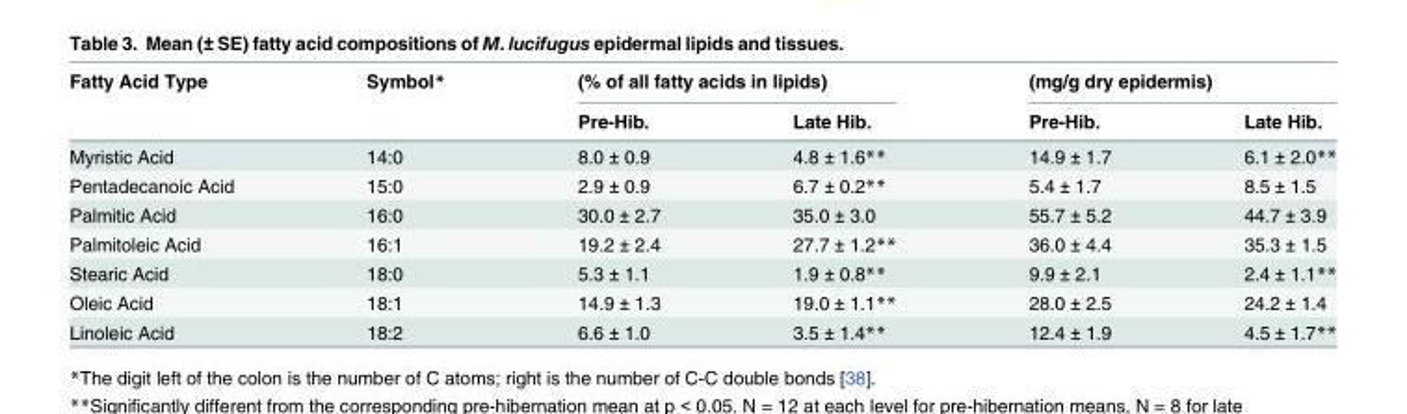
<table><thead><tr><td rowspan="2">Fatty Acid Type</td><td rowspan="2">Symbol*</td><td colspan="2">(% of all fatty acids in lipids)</td><td colspan="2">(mg/g dry epidermis)</td></tr><tr><td>Pre-Hib.</td><td>Late Hib.</td><td>Pre-Hib.</td><td>Late Hib.</td></tr></thead><tbody><tr><td>Myristic Acid</td><td>14:0</td><td>8.0 ± 0.9</td><td>4.8 ± 1.6**</td><td>14.9 ± 1.7</td><td>6.1 ± 2.0**</td></tr><tr><td>Pentadecanoic Acid</td><td>15:0</td><td>2.9 ± 0.9</td><td>6.7 ± 0.2**</td><td>5.4 ± 1.7</td><td>8.5 ± 1.5</td></tr><tr><td>Palmitic Acid</td><td>16:0</td><td>30.0 ± 2.7</td><td>35.0 ± 3.0</td><td>55.7 ± 5.2</td><td>44.7 ± 3.9</td></tr><tr><td>Palmitoleic Acid</td><td>16:1</td><td>19.2 ± 2.4</td><td>27.7 ± 1.2**</td><td>36.0 ± 4.4</td><td>35.3 ± 1.5</td></tr><tr><td>Stearic Acid</td><td>18:0</td><td>5.3 ± 1.1</td><td>1.9 ± 0.8**</td><td>9.9 ± 2.1</td><td>2.4 ± 1.1**</td></tr><tr><td>Oleic Acid</td><td>18:1</td><td>14.9 ± 1.3</td><td>19.0 ± 1.1**</td><td>28.0 ± 2.5</td><td>24.2 ± 1.4</td></tr><tr><td>Linoleic Acid</td><td>18:2</td><td>6.6 ± 1.0</td><td>3.5 ± 1.4**</td><td>12.4 ± 1.9</td><td>4.5 ± 1.7**</td></tr></tbody></table>